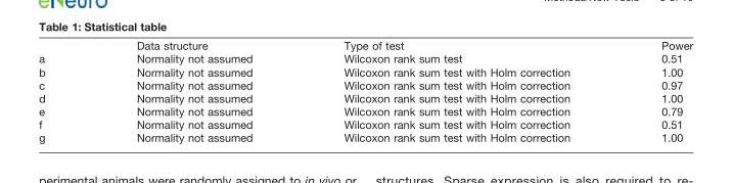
<table><thead><tr><td></td><td>Data structure</td><td>Type of test</td><td>Power</td></tr></thead><tbody><tr><td>a</td><td>Normality not assumed</td><td>Wilcoxon rank sum test</td><td>0.51</td></tr><tr><td>b</td><td>Normality not assumed</td><td>Wilcoxon rank sum test with Holm correction</td><td>1.00</td></tr><tr><td>c</td><td>Normality not assumed</td><td>Wilcoxon rank sum test with Holm correction</td><td>0.97</td></tr><tr><td>d</td><td>Normality not assumed</td><td>Wilcoxon rank sum test with Holm correction</td><td>1.00</td></tr><tr><td>e</td><td>Normality not assumed</td><td>Wilcoxon rank sum test with Holm correction</td><td>0.79</td></tr><tr><td>f</td><td>Normality not assumed</td><td>Wilcoxon rank sum test with Holm correction</td><td>0.51</td></tr><tr><td>g</td><td>Normality not assumed</td><td>Wilcoxon rank sum test with Holm correction</td><td>1.00</td></tr></tbody></table>